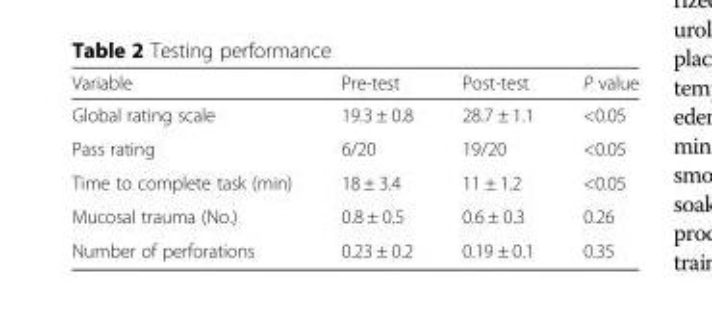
<table><thead><tr><td>Variable</td><td>Pre-test</td><td>Post-test</td><td>P value</td></tr></thead><tbody><tr><td>Global rating scale</td><td>19.3 ± 0.8</td><td>28.7 ± 1.1</td><td>&lt;0.05</td></tr><tr><td>Pass rating</td><td>6/20</td><td>19/20</td><td>&lt;0.05</td></tr><tr><td>Time to complete task (min)</td><td>18 ± 3.4</td><td>11 ± 1.2</td><td>&lt;0.05</td></tr><tr><td>Mucosal trauma (No.)</td><td>0.8 ± 0.5</td><td>0.6 ± 0.3</td><td>0.26</td></tr><tr><td>Number of perforations</td><td>0.23 ± 0.2</td><td>0.19 ± 0.1</td><td>0.35</td></tr></tbody></table>